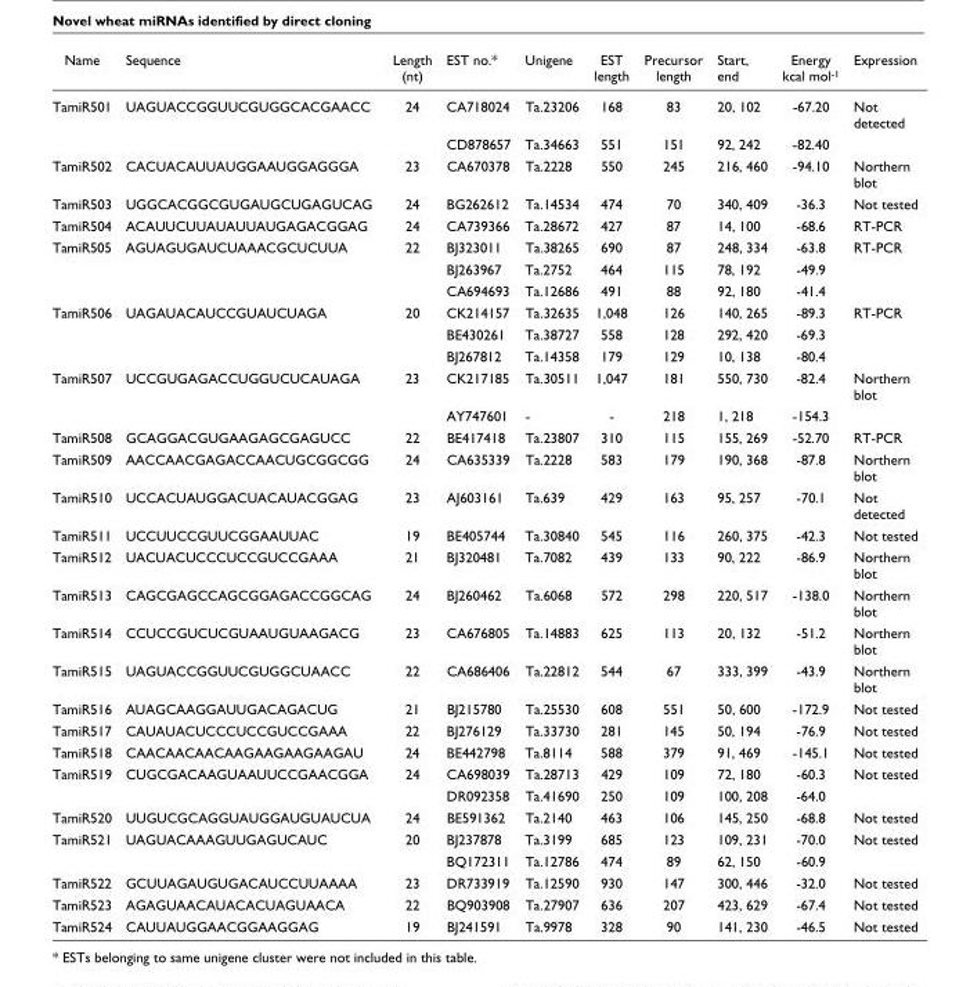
<table><thead><tr><td>Name</td><td>Sequence</td><td>Length (nt)</td><td>EST no.*</td><td>Unigene</td><td>EST length</td><td>Precursor length</td><td>Start, end</td><td>Energy kcal mol<sup>-1</sup></td><td>Expression</td></tr></thead><tbody><tr><td rowspan="2">TamiR501</td><td>UAGUACCGGUUCGUGGCACGAACC</td><td>24</td><td>CA718024</td><td>Ta.23206</td><td>168</td><td>83</td><td>20, 102</td><td>-67.20</td><td>Not detected</td></tr><tr><td></td><td></td><td>CD878657</td><td>Ta.34663</td><td>551</td><td>151</td><td>92, 242</td><td>-82.40</td><td></td></tr><tr><td>TamiR502</td><td>CACUACAUUAUGGAAUGGAGGGA</td><td>23</td><td>CA670378</td><td>Ta.2228</td><td>550</td><td>245</td><td>216, 460</td><td>-94.10</td><td>Northern blot</td></tr><tr><td>TamiR503</td><td>UGGCACGGCGUGAUGCUGAGUCAG</td><td>24</td><td>BG262612</td><td>Ta.14534</td><td>474</td><td>70</td><td>340, 409</td><td>-36.3</td><td>Not tested</td></tr><tr><td>TamiR504</td><td>ACAUUCUUAUAUUAUGAGACGGAG</td><td>24</td><td>CA739366</td><td>Ta.28672</td><td>427</td><td>87</td><td>14, 100</td><td>-68.6</td><td>RT-PCR</td></tr><tr><td rowspan="3">TamiR505</td><td>AGUAGUGAUCUAAACGCUCUUA</td><td>22</td><td>BJ323011</td><td>Ta.38265</td><td>690</td><td>87</td><td>248, 334</td><td>-63.8</td><td>RT-PCR</td></tr><tr><td></td><td></td><td>BJ263967</td><td>Ta.2752</td><td>464</td><td>115</td><td>78, 192</td><td>-49.9</td><td></td></tr><tr><td></td><td></td><td>CA694693</td><td>Ta.12686</td><td>491</td><td>88</td><td>92, 180</td><td>-41.4</td><td></td></tr><tr><td rowspan="3">TamiR506</td><td>UAGAUACAUCCGUAUCUAGA</td><td>20</td><td>CK214157</td><td>Ta.32635</td><td>1,048</td><td>126</td><td>140, 265</td><td>-89.3</td><td>RT-PCR</td></tr><tr><td></td><td></td><td>BE430261</td><td>Ta.38727</td><td>558</td><td>128</td><td>292, 420</td><td>-69.3</td><td></td></tr><tr><td></td><td></td><td>BJ267812</td><td>Ta.14358</td><td>179</td><td>129</td><td>10, 138</td><td>-80.4</td><td></td></tr><tr><td rowspan="2">TamiR507</td><td>UCCGUGAGACCUGGUCUCAUAGA</td><td>23</td><td>CK217185</td><td>Ta.30511</td><td>1,047</td><td>181</td><td>550, 730</td><td>-82.4</td><td>Northern blot</td></tr><tr><td></td><td></td><td>AY747601</td><td>-</td><td>-</td><td>218</td><td>1, 218</td><td>-154.3</td><td></td></tr><tr><td>TamiR508</td><td>GCAGGACGUGAAGAGCGAGUCC</td><td>22</td><td>BE417418</td><td>Ta.23807</td><td>310</td><td>115</td><td>155, 269</td><td>-52.70</td><td>RT-PCR</td></tr><tr><td>TamiR509</td><td>AACCAACGAGACCAACUGCGGCGG</td><td>24</td><td>CA635339</td><td>Ta.2228</td><td>583</td><td>179</td><td>190, 368</td><td>-87.8</td><td>Northern blot</td></tr><tr><td>TamiR510</td><td>UCCACUAUGGACUACAUACGGAG</td><td>23</td><td>AJ603161</td><td>Ta.639</td><td>429</td><td>163</td><td>95, 257</td><td>-70.1</td><td>Not detected</td></tr><tr><td>TamiR511</td><td>UCCUUCCGUUCGGAAUUAC</td><td>19</td><td>BE405744</td><td>Ta.30840</td><td>545</td><td>116</td><td>260, 375</td><td>-42.3</td><td>Not tested</td></tr><tr><td>TamiR512</td><td>UACUACUCCCUCCGUCCGAAA</td><td>21</td><td>BJ320481</td><td>Ta.7082</td><td>439</td><td>133</td><td>90, 222</td><td>-86.9</td><td>Northern blot</td></tr><tr><td>TamiR513</td><td>CAGCGAGCCAGCGGAGACCGGCAG</td><td>24</td><td>BJ260462</td><td>Ta.6068</td><td>572</td><td>298</td><td>220, 517</td><td>-138.0</td><td>Northern blot</td></tr><tr><td>TamiR514</td><td>CCUCCGUCUCGUAAUGUAAGACG</td><td>23</td><td>CA676805</td><td>Ta.14883</td><td>625</td><td>113</td><td>20, 132</td><td>-51.2</td><td>Northern blot</td></tr><tr><td>TamiR515</td><td>UAGUACCGGUUCGUGGCUAACC</td><td>22</td><td>CA686406</td><td>Ta.22812</td><td>544</td><td>67</td><td>333, 399</td><td>-43.9</td><td>Northern blot</td></tr><tr><td>TamiR516</td><td>AUAGCAAGGAUUGACAGACUG</td><td>21</td><td>BJ215780</td><td>Ta.25530</td><td>608</td><td>551</td><td>50, 600</td><td>-172.9</td><td>Not tested</td></tr><tr><td>TamiR517</td><td>CAUAUACUCCCUCCGUCCGAAA</td><td>22</td><td>BJ276129</td><td>Ta.33730</td><td>281</td><td>145</td><td>50, 194</td><td>-76.9</td><td>Not tested</td></tr><tr><td>TamiR518</td><td>CAACAACAACAAGAAGAAGAAGAU</td><td>24</td><td>BE442798</td><td>Ta.8114</td><td>588</td><td>379</td><td>91, 469</td><td>-145.1</td><td>Not tested</td></tr><tr><td rowspan="2">TamiR519</td><td>CUGCGACAAGUAAUUCCGAACGGA</td><td>24</td><td>CA698039</td><td>Ta.28713</td><td>429</td><td>109</td><td>72, 180</td><td>-60.3</td><td>Not tested</td></tr><tr><td></td><td></td><td>DR092358</td><td>Ta.41690</td><td>250</td><td>109</td><td>100, 208</td><td>-64.0</td><td></td></tr><tr><td>TamiR520</td><td>UUGUCGCAGGUAUGGAUGUAUCUA</td><td>24</td><td>BE591362</td><td>Ta.2140</td><td>463</td><td>106</td><td>145, 250</td><td>-68.8</td><td>Not tested</td></tr><tr><td rowspan="2">TamiR521</td><td>UAGUACAAAGUUGAGUCAUC</td><td>20</td><td>BJ237878</td><td>Ta.3199</td><td>685</td><td>123</td><td>109, 231</td><td>-70.0</td><td>Not tested</td></tr><tr><td></td><td></td><td>BQ172311</td><td>Ta.12786</td><td>474</td><td>89</td><td>62, 150</td><td>-60.9</td><td></td></tr><tr><td>TamiR522</td><td>GCUUAGAUGUGACAUCCUUAAAA</td><td>23</td><td>DR733919</td><td>Ta.12590</td><td>930</td><td>147</td><td>300, 446</td><td>-32.0</td><td>Not tested</td></tr><tr><td>TamiR523</td><td>AGAGUAACAUACACUAGUAACA</td><td>22</td><td>BQ903908</td><td>Ta.27907</td><td>636</td><td>207</td><td>423, 629</td><td>-67.4</td><td>Not tested</td></tr><tr><td>TamiR524</td><td>CAUUAUGGAACGGAAGGAG</td><td>19</td><td>BJ241591</td><td>Ta.9978</td><td>328</td><td>90</td><td>141, 230</td><td>-46.5</td><td>Not tested</td></tr></tbody></table>